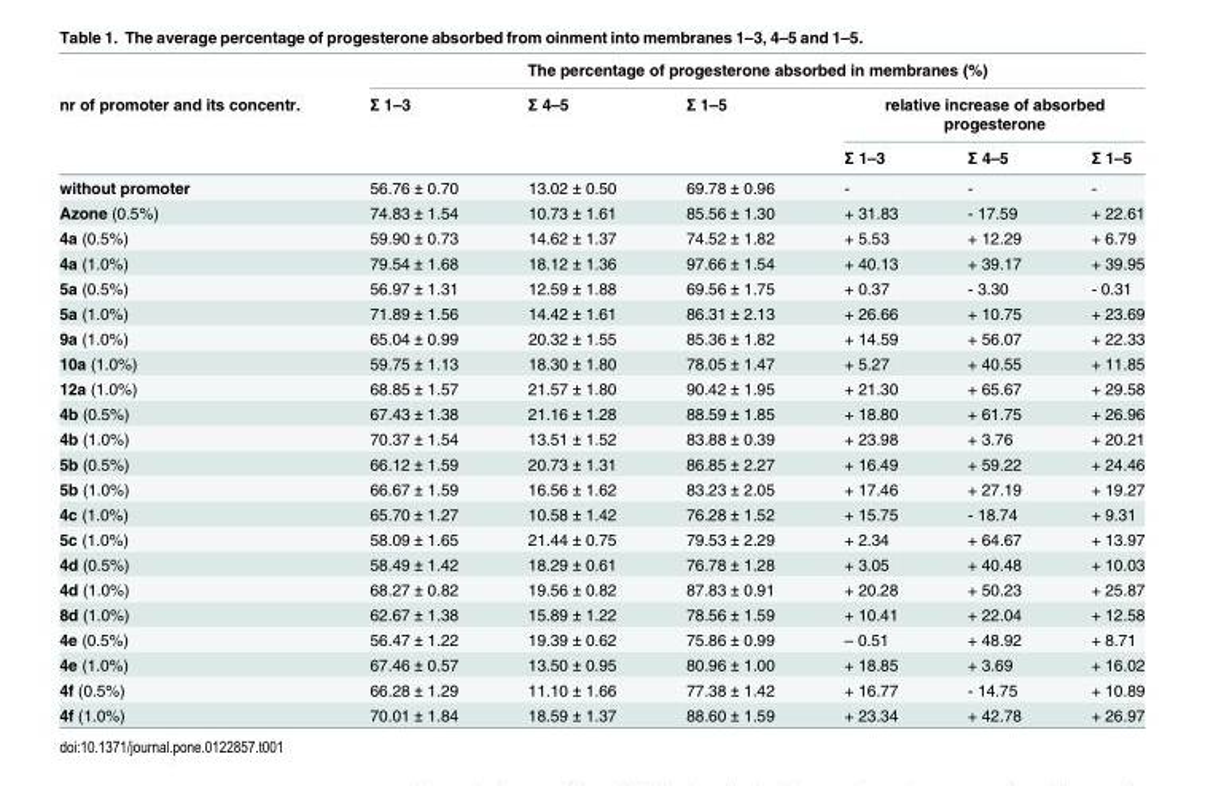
<table><thead><tr><td rowspan="3">nr of promoter and its concentr.</td><td colspan="6">The percentage of progesterone absorbed in membranes (%)</td></tr><tr><td rowspan="2">Σ 1–3</td><td rowspan="2">Σ 4–5</td><td rowspan="2">Σ 1–5</td><td colspan="3">relative increase of absorbed progesterone</td></tr><tr><td>Σ 1–3</td><td>Σ 4–5</td><td>Σ 1–5</td></tr></thead><tbody><tr><td>without promoter</td><td>56.76 ± 0.70</td><td>13.02 ± 0.50</td><td>69.78 ± 0.96</td><td>-</td><td>-</td><td>-</td></tr><tr><td>Azone (0.5%)</td><td>74.83 ± 1.54</td><td>10.73 ± 1.61</td><td>85.56 ± 1.30</td><td>+ 31.83</td><td>- 17.59</td><td>+ 22.61</td></tr><tr><td>4a (0.5%)</td><td>59.90 ± 0.73</td><td>14.62 ± 1.37</td><td>74.52 ± 1.82</td><td>+ 5.53</td><td>+ 12.29</td><td>+ 6.79</td></tr><tr><td>4a (1.0%)</td><td>79.54 ± 1.68</td><td>18.12 ± 1.36</td><td>97.66 ± 1.54</td><td>+ 40.13</td><td>+ 39.17</td><td>+ 39.95</td></tr><tr><td>5a (0.5%)</td><td>56.97 ± 1.31</td><td>12.59 ± 1.88</td><td>69.56 ± 1.75</td><td>+ 0.37</td><td>- 3.30</td><td>- 0.31</td></tr><tr><td>5a (1.0%)</td><td>71.89 ± 1.56</td><td>14.42 ± 1.61</td><td>86.31 ± 2.13</td><td>+ 26.66</td><td>+ 10.75</td><td>+ 23.69</td></tr><tr><td>9a (1.0%)</td><td>65.04 ± 0.99</td><td>20.32 ± 1.55</td><td>85.36 ± 1.82</td><td>+ 14.59</td><td>+ 56.07</td><td>+ 22.33</td></tr><tr><td>10a (1.0%)</td><td>59.75 ± 1.13</td><td>18.30 ± 1.80</td><td>78.05 ± 1.47</td><td>+ 5.27</td><td>+ 40.55</td><td>+ 11.85</td></tr><tr><td>12a (1.0%)</td><td>68.85 ± 1.57</td><td>21.57 ± 1.80</td><td>90.42 ± 1.95</td><td>+ 21.30</td><td>+ 65.67</td><td>+ 29.58</td></tr><tr><td>4b (0.5%)</td><td>67.43 ± 1.38</td><td>21.16 ± 1.28</td><td>88.59 ± 1.85</td><td>+ 18.80</td><td>+ 61.75</td><td>+ 26.96</td></tr><tr><td>4b (1.0%)</td><td>70.37 ± 1.54</td><td>13.51 ± 1.52</td><td>83.88 ± 0.39</td><td>+ 23.98</td><td>+ 3.76</td><td>+ 20.21</td></tr><tr><td>5b (0.5%)</td><td>66.12 ± 1.59</td><td>20.73 ± 1.31</td><td>86.85 ± 2.27</td><td>+ 16.49</td><td>+ 59.22</td><td>+ 24.46</td></tr><tr><td>5b (1.0%)</td><td>66.67 ± 1.59</td><td>16.56 ± 1.62</td><td>83.23 ± 2.05</td><td>+ 17.46</td><td>+ 27.19</td><td>+ 19.27</td></tr><tr><td>4c (1.0%)</td><td>65.70 ± 1.27</td><td>10.58 ± 1.42</td><td>76.28 ± 1.52</td><td>+ 15.75</td><td>- 18.74</td><td>+ 9.31</td></tr><tr><td>5c (1.0%)</td><td>58.09 ± 1.65</td><td>21.44 ± 0.75</td><td>79.53 ± 2.29</td><td>+ 2.34</td><td>+ 64.67</td><td>+ 13.97</td></tr><tr><td>4d (0.5%)</td><td>58.49 ± 1.42</td><td>18.29 ± 0.61</td><td>76.78 ± 1.28</td><td>+ 3.05</td><td>+ 40.48</td><td>+ 10.03</td></tr><tr><td>4d (1.0%)</td><td>68.27 ± 0.82</td><td>19.56 ± 0.82</td><td>87.83 ± 0.91</td><td>+ 20.28</td><td>+ 50.23</td><td>+ 25.87</td></tr><tr><td>8d (1.0%)</td><td>62.67 ± 1.38</td><td>15.89 ± 1.22</td><td>78.56 ± 1.59</td><td>+ 10.41</td><td>+ 22.04</td><td>+ 12.58</td></tr><tr><td>4e (0.5%)</td><td>56.47 ± 1.22</td><td>19.39 ± 0.62</td><td>75.86 ± 0.99</td><td>– 0.51</td><td>+ 48.92</td><td>+ 8.71</td></tr><tr><td>4e (1.0%)</td><td>67.46 ± 0.57</td><td>13.50 ± 0.95</td><td>80.96 ± 1.00</td><td>+ 18.85</td><td>+ 3.69</td><td>+ 16.02</td></tr><tr><td>4f (0.5%)</td><td>66.28 ± 1.29</td><td>11.10 ± 1.66</td><td>77.38 ± 1.42</td><td>+ 16.77</td><td>- 14.75</td><td>+ 10.89</td></tr><tr><td>4f (1.0%)</td><td>70.01 ± 1.84</td><td>18.59 ± 1.37</td><td>88.60 ± 1.59</td><td>+ 23.34</td><td>+ 42.78</td><td>+ 26.97</td></tr></tbody></table>